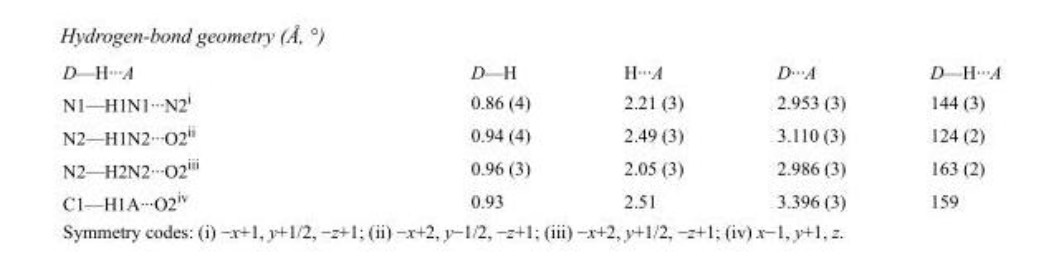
<table><tbody><tr><td>D—H···A</td><td>D—H</td><td>H···A</td><td>D···A</td><td>D—H···A</td></tr><tr><td>N1—H1N1···N2<sup>i</sup></td><td>0.86 (4)</td><td>2.21 (3)</td><td>2.953 (3)</td><td>144 (3)</td></tr><tr><td>N2—H1N2···O2<sup>ii</sup></td><td>0.94 (4)</td><td>2.49 (3)</td><td>3.110 (3)</td><td>124 (2)</td></tr><tr><td>N2—H2N2···O2<sup>iii</sup></td><td>0.96 (3)</td><td>2.05 (3)</td><td>2.986 (3)</td><td>163 (2)</td></tr><tr><td>C1—H1A···O2<sup>iv</sup></td><td>0.93</td><td>2.51</td><td>3.396 (3)</td><td>159</td></tr></tbody></table>